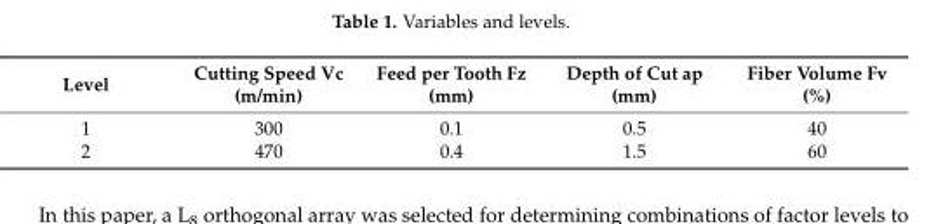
<table><thead><tr><td>Level</td><td>Cutting Speed Vc (m/min)</td><td>Feed per Tooth Fz (mm)</td><td>Depth of Cut ap (mm)</td><td>Fiber Volume Fv (%)</td></tr></thead><tbody><tr><td>1</td><td>300</td><td>0.1</td><td>0.5</td><td>40</td></tr><tr><td>2</td><td>470</td><td>0.4</td><td>1.5</td><td>60</td></tr></tbody></table>